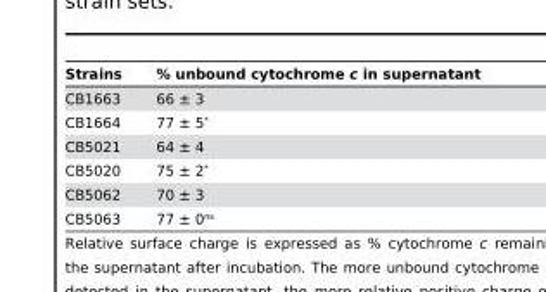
<table><thead><tr><td>Strains</td><td>% unbound cytochrome c in supernatant</td></tr></thead><tbody><tr><td>CB1663</td><td>66 ± 3</td></tr><tr><td>CB1664</td><td>77 ± 5*</td></tr><tr><td>CB5021</td><td>64 ± 4</td></tr><tr><td>CB5020</td><td>75 ± 2*</td></tr><tr><td>CB5062</td><td>70 ± 3</td></tr><tr><td>CB5063</td><td>77 ± 0<sup>ns</sup></td></tr></tbody></table>